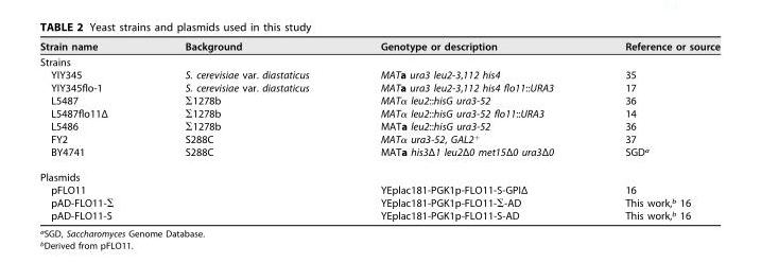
<table><thead><tr><td>Strain name</td><td>Background</td><td>Genotype or description</td><td>Reference or source</td></tr></thead><tbody><tr><td colspan="4">Strains</td></tr><tr><td>YIY345</td><td>S. cerevisiae var. diastaticus</td><td>MATa ura3 leu2-3,112 his4</td><td>35</td></tr><tr><td>YIY345flo-1</td><td>S. cerevisiae var. diastaticus</td><td>MATa ura3 leu2-3,112 his4 flo11::URA3</td><td>17</td></tr><tr><td>L5487</td><td>Σ1278b</td><td>MATα leu2::hisG ura3-52</td><td>36</td></tr><tr><td>L5487flo11Δ</td><td>Σ1278b</td><td>MATα leu2::hisG ura3-52 flo11::URA3</td><td>14</td></tr><tr><td>L5486</td><td>Σ1278b</td><td>MATa leu2::hisG ura3-52</td><td>36</td></tr><tr><td>FY2</td><td>S288C</td><td>MATα ura3-52, GAL2<sup>+</sup></td><td>37</td></tr><tr><td>BY4741</td><td>S288C</td><td>MATa his3Δ1 leu2Δ0 met15Δ0 ura3Δ0</td><td>SGD<sup>a</sup></td></tr><tr><td colspan="4">Plasmids</td></tr><tr><td>pFLO11</td><td></td><td>YEplac181-PGK1p-FLO11-S-GPIΔ</td><td>16</td></tr><tr><td>pAD-FLO11-Σ</td><td></td><td>YEplac181-PGK1p-FLO11-Σ-AD</td><td>This work,<sup>b</sup> 16</td></tr><tr><td>pAD-FLO11-S</td><td></td><td>YEplac181-PGK1p-FLO11-S-AD</td><td>This work,<sup>b</sup> 16</td></tr></tbody></table>